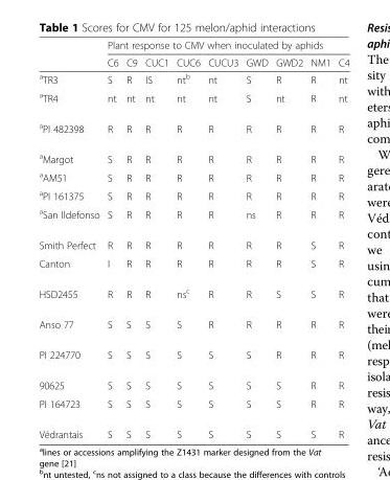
<table><thead><tr><td rowspan="2"></td><td colspan="9">Plant response to CMV when inoculated by aphids</td></tr><tr><td>C6</td><td>C9</td><td>CUC1</td><td>CUC6</td><td>CUCU3</td><td>GWD</td><td>GWD2</td><td>NM1</td><td>C4</td></tr></thead><tbody><tr><td><sup>a</sup>TR3</td><td>S</td><td>R</td><td>IS</td><td>nt<sup>b</sup></td><td>nt</td><td>S</td><td>R</td><td>R</td><td>nt</td></tr><tr><td><sup>a</sup>TR4</td><td>nt</td><td>nt</td><td>nt</td><td>nt</td><td>nt</td><td>S</td><td>nt</td><td>R</td><td>nt</td></tr><tr><td><sup>a</sup>PI 482398</td><td>R</td><td>R</td><td>R</td><td>R</td><td>R</td><td>R</td><td>R</td><td>R</td><td>R</td></tr><tr><td><sup>a</sup>Margot</td><td>S</td><td>R</td><td>R</td><td>R</td><td>R</td><td>R</td><td>R</td><td>R</td><td>R</td></tr><tr><td><sup>a</sup>AM51</td><td>S</td><td>R</td><td>R</td><td>R</td><td>R</td><td>R</td><td>R</td><td>R</td><td>R</td></tr><tr><td><sup>a</sup>PI 161375</td><td>S</td><td>R</td><td>R</td><td>R</td><td>R</td><td>R</td><td>R</td><td>R</td><td>R</td></tr><tr><td><sup>a</sup>San Ildefonso</td><td>S</td><td>R</td><td>R</td><td>R</td><td>R</td><td>ns</td><td>R</td><td>R</td><td>R</td></tr><tr><td>Smith Perfect</td><td>R</td><td>R</td><td>R</td><td>R</td><td>R</td><td>R</td><td>R</td><td>S</td><td>R</td></tr><tr><td>Canton</td><td>I</td><td>R</td><td>R</td><td>R</td><td>R</td><td>R</td><td>R</td><td>S</td><td>R</td></tr><tr><td>HSD2455</td><td>R</td><td>R</td><td>R</td><td>ns<sup>c</sup></td><td>R</td><td>R</td><td>S</td><td>S</td><td>R</td></tr><tr><td>Anso 77</td><td>S</td><td>S</td><td>S</td><td>S</td><td>R</td><td>R</td><td>R</td><td>R</td><td>R</td></tr><tr><td>PI 224770</td><td>S</td><td>S</td><td>S</td><td>S</td><td>S</td><td>S</td><td>R</td><td>R</td><td>R</td></tr><tr><td>90625</td><td>S</td><td>S</td><td>S</td><td>S</td><td>S</td><td>S</td><td>S</td><td>R</td><td>R</td></tr><tr><td>PI 164723</td><td>S</td><td>S</td><td>S</td><td>S</td><td>S</td><td>S</td><td>S</td><td>R</td><td>R</td></tr><tr><td>Védrantais</td><td>S</td><td>S</td><td>S</td><td>S</td><td>S</td><td>S</td><td>S</td><td>S</td><td>R</td></tr></tbody></table>